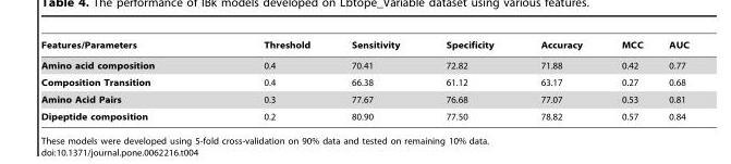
<table><thead><tr><td>Features/Parameters</td><td>Threshold</td><td>Sensitivity</td><td>Specificity</td><td>Accuracy</td><td>MCC</td><td>AUC</td></tr></thead><tbody><tr><td>Amino acid composition</td><td>0.4</td><td>70.41</td><td>72.82</td><td>71.88</td><td>0.42</td><td>0.77</td></tr><tr><td>Composition Transition</td><td>0.4</td><td>66.38</td><td>61.12</td><td>63.17</td><td>0.27</td><td>0.68</td></tr><tr><td>Amino Acid Pairs</td><td>0.3</td><td>77.67</td><td>76.68</td><td>77.07</td><td>0.53</td><td>0.81</td></tr><tr><td>Dipeptide composition</td><td>0.2</td><td>80.90</td><td>77.50</td><td>78.82</td><td>0.57</td><td>0.84</td></tr></tbody></table>